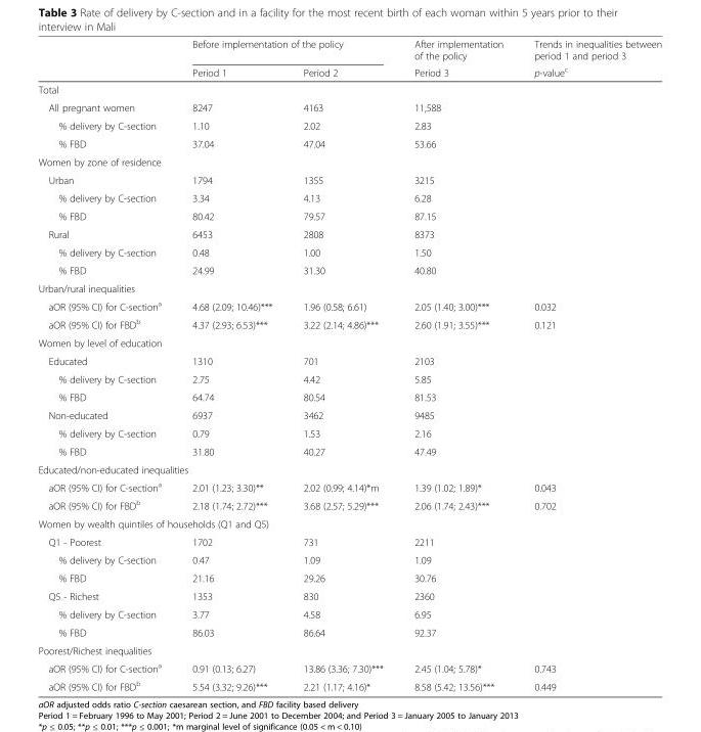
<table><thead><tr><td rowspan="2"></td><td colspan="2">Before implementation of the policy</td><td rowspan="2">After implementation of the policy Period 3</td><td rowspan="2">Trends in inequalities between period 1 and period 3 p-value<sup>c</sup></td></tr><tr><td>Period 1</td><td>Period 2</td></tr></thead><tbody><tr><td colspan="5">Total</td></tr><tr><td>All pregnant women</td><td>8247</td><td>4163</td><td>11,588</td><td></td></tr><tr><td>% delivery by C-section</td><td>1.10</td><td>2.02</td><td>2.83</td><td></td></tr><tr><td>% FBD</td><td>37.04</td><td>47.04</td><td>53.66</td><td></td></tr><tr><td colspan="5">Women by zone of residence</td></tr><tr><td>Urban</td><td>1794</td><td>1355</td><td>3215</td><td></td></tr><tr><td>% delivery by C-section</td><td>3.34</td><td>4.13</td><td>6.28</td><td></td></tr><tr><td>% FBD</td><td>80.42</td><td>79.57</td><td>87.15</td><td></td></tr><tr><td>Rural</td><td>6453</td><td>2808</td><td>8373</td><td></td></tr><tr><td>% delivery by C-section</td><td>0.48</td><td>1.00</td><td>1.50</td><td></td></tr><tr><td>% FBD</td><td>24.99</td><td>31.30</td><td>40.80</td><td></td></tr><tr><td colspan="5">Urban/rural inequalities</td></tr><tr><td>aOR (95% CI) for C-section<sup>a</sup></td><td>4.68 (2.09; 10.46)***</td><td>1.96 (0.58; 6.61)</td><td>2.05 (1.40; 3.00)***</td><td>0.032</td></tr><tr><td>aOR (95% CI) for FBD<sup>b</sup></td><td>4.37 (2.93; 6.53)***</td><td>3.22 (2.14; 4.86)***</td><td>2.60 (1.91; 3.55)***</td><td>0.121</td></tr><tr><td colspan="5">Women by level of education</td></tr><tr><td>Educated</td><td>1310</td><td>701</td><td>2103</td><td></td></tr><tr><td>% delivery by C-section</td><td>2.75</td><td>4.42</td><td>5.85</td><td></td></tr><tr><td>% FBD</td><td>64.74</td><td>80.54</td><td>81.53</td><td></td></tr><tr><td>Non-educated</td><td>6937</td><td>3462</td><td>9485</td><td></td></tr><tr><td>% delivery by C-section</td><td>0.79</td><td>1.53</td><td>2.16</td><td></td></tr><tr><td>% FBD</td><td>31.80</td><td>40.27</td><td>47.49</td><td></td></tr><tr><td colspan="5">Educated/non-educated inequalities</td></tr><tr><td>aOR (95% CI) for C-section<sup>a</sup></td><td>2.01 (1.23; 3.30)**</td><td>2.02 (0.99; 4.14)*m</td><td>1.39 (1.02; 1.89)*</td><td>0.043</td></tr><tr><td>aOR (95% CI) for FBD<sup>b</sup></td><td>2.18 (1.74; 2.72)***</td><td>3.68 (2.57; 5.29)***</td><td>2.06 (1.74; 2.43)***</td><td>0.702</td></tr><tr><td colspan="5">Women by wealth quintiles of households (Q1 and Q5)</td></tr><tr><td>Q1 - Poorest</td><td>1702</td><td>731</td><td>2211</td><td></td></tr><tr><td>% delivery by C-section</td><td>0.47</td><td>1.09</td><td>1.09</td><td></td></tr><tr><td>% FBD</td><td>21.16</td><td>29.26</td><td>30.76</td><td></td></tr><tr><td>Q5 - Richest</td><td>1353</td><td>830</td><td>2360</td><td></td></tr><tr><td>% delivery by C-section</td><td>3.77</td><td>4.58</td><td>6.95</td><td></td></tr><tr><td>% FBD</td><td>86.03</td><td>86.64</td><td>92.37</td><td></td></tr><tr><td colspan="5">Poorest/Richest inequalities</td></tr><tr><td>aOR (95% CI) for C-section<sup>a</sup></td><td>0.91 (0.13; 6.27)</td><td>13.86 (3.36; 7.30)***</td><td>2.45 (1.04; 5.78)*</td><td>0.743</td></tr><tr><td>aOR (95% CI) for FBD<sup>b</sup></td><td>5.54 (3.32; 9.26)***</td><td>2.21 (1.17; 4.16)*</td><td>8.58 (5.42; 13.56)***</td><td>0.449</td></tr></tbody></table>